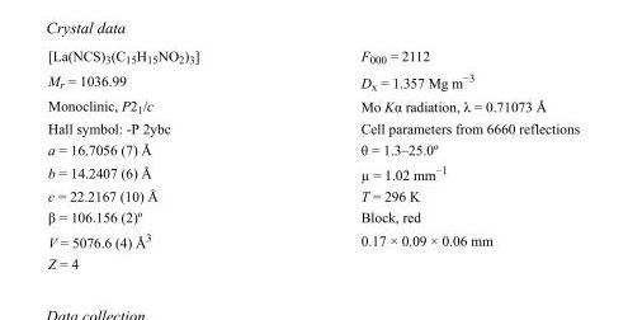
<table><tbody><tr><td>[La(NCS)<sub>3</sub>(C<sub>15</sub>H<sub>15</sub>NO<sub>2</sub>)<sub>3</sub>]</td><td>F000 = 2112</td></tr><tr><td>M<sub>r</sub> = 1036.99</td><td>D<sub>x</sub> = 1.357 Mg m<sup>−3</sup></td></tr><tr><td>Monoclinic, P2<sub>1</sub>/c</td><td>Mo Kα radiation, λ = 0.71073 Å</td></tr><tr><td>Hall symbol: -P 2ybc</td><td>Cell parameters from 6660 reflections</td></tr><tr><td>a = 16.7056 (7) Å</td><td>θ = 1.3–25.0º</td></tr><tr><td>b = 14.2407 (6) Å</td><td>µ = 1.02 mm<sup>−1</sup></td></tr><tr><td>c = 22.2167 (10) Å</td><td>T = 296 K</td></tr><tr><td>β = 106.156 (2)º</td><td>Block, red</td></tr><tr><td>V = 5076.6 (4) Å<sup>3</sup></td><td>0.17 × 0.09 × 0.06 mm</td></tr><tr><td>Z = 4</td><td></td></tr></tbody></table>